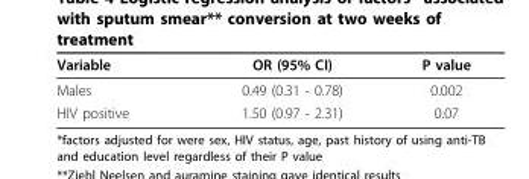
<table><thead><tr><td>Variable</td><td>OR (95% CI)</td><td>P value</td></tr></thead><tbody><tr><td>Males</td><td>0.49 (0.31 - 0.78)</td><td>0.002</td></tr><tr><td>HIV positive</td><td>1.50 (0.97 - 2.31)</td><td>0.07</td></tr></tbody></table>